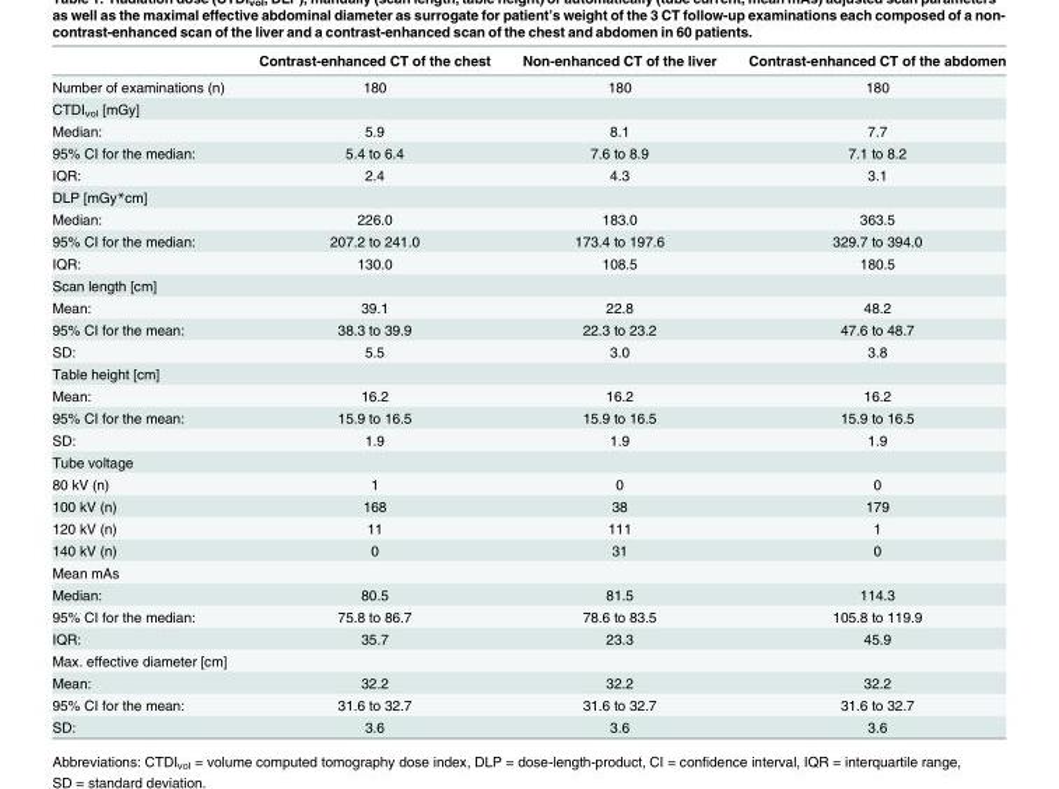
<table><thead><tr><td></td><td>Contrast-enhanced CT of the chest</td><td>Non-enhanced CT of the liver</td><td>Contrast-enhanced CT of the abdomen</td></tr></thead><tbody><tr><td>Number of examinations (n)</td><td>180</td><td>180</td><td>180</td></tr><tr><td colspan="4">CTDI<sub>vol</sub> [mGy]</td></tr><tr><td>Median:</td><td>5.9</td><td>8.1</td><td>7.7</td></tr><tr><td>95% CI for the median:</td><td>5.4 to 6.4</td><td>7.6 to 8.9</td><td>7.1 to 8.2</td></tr><tr><td>IQR:</td><td>2.4</td><td>4.3</td><td>3.1</td></tr><tr><td colspan="4">DLP [mGy*cm]</td></tr><tr><td>Median:</td><td>226.0</td><td>183.0</td><td>363.5</td></tr><tr><td>95% CI for the median:</td><td>207.2 to 241.0</td><td>173.4 to 197.6</td><td>329.7 to 394.0</td></tr><tr><td>IQR:</td><td>130.0</td><td>108.5</td><td>180.5</td></tr><tr><td colspan="4">Scan length [cm]</td></tr><tr><td>Mean:</td><td>39.1</td><td>22.8</td><td>48.2</td></tr><tr><td>95% CI for the mean:</td><td>38.3 to 39.9</td><td>22.3 to 23.2</td><td>47.6 to 48.7</td></tr><tr><td>SD:</td><td>5.5</td><td>3.0</td><td>3.8</td></tr><tr><td colspan="4">Table height [cm]</td></tr><tr><td>Mean:</td><td>16.2</td><td>16.2</td><td>16.2</td></tr><tr><td>95% CI for the mean:</td><td>15.9 to 16.5</td><td>15.9 to 16.5</td><td>15.9 to 16.5</td></tr><tr><td>SD:</td><td>1.9</td><td>1.9</td><td>1.9</td></tr><tr><td colspan="4">Tube voltage</td></tr><tr><td>80 kV (n)</td><td>1</td><td>0</td><td>0</td></tr><tr><td>100 kV (n)</td><td>168</td><td>38</td><td>179</td></tr><tr><td>120 kV (n)</td><td>11</td><td>111</td><td>1</td></tr><tr><td>140 kV (n)</td><td>0</td><td>31</td><td>0</td></tr><tr><td colspan="4">Mean mAs</td></tr><tr><td>Median:</td><td>80.5</td><td>81.5</td><td>114.3</td></tr><tr><td>95% CI for the median:</td><td>75.8 to 86.7</td><td>78.6 to 83.5</td><td>105.8 to 119.9</td></tr><tr><td>IQR:</td><td>35.7</td><td>23.3</td><td>45.9</td></tr><tr><td colspan="4">Max. effective diameter [cm]</td></tr><tr><td>Mean:</td><td>32.2</td><td>32.2</td><td>32.2</td></tr><tr><td>95% CI for the mean:</td><td>31.6 to 32.7</td><td>31.6 to 32.7</td><td>31.6 to 32.7</td></tr><tr><td>SD:</td><td>3.6</td><td>3.6</td><td>3.6</td></tr></tbody></table>